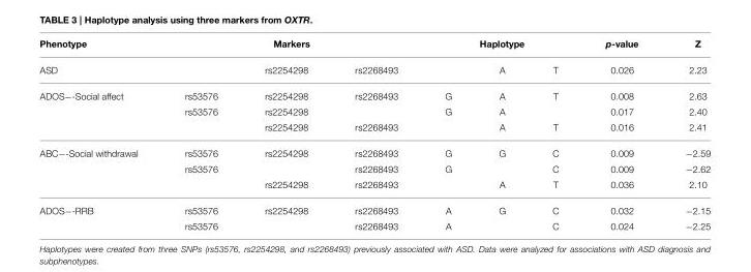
<table><thead><tr><td rowspan="2">Phenotype ASD</td><td colspan="3">Markers</td><td colspan="3">Haplotype</td><td rowspan="2">p-value 0.026</td><td rowspan="2">Z 2.23</td></tr><tr><td></td><td>rs2254298</td><td>rs2268493</td><td></td><td>A</td><td>T</td></tr></thead><tbody><tr><td rowspan="3">ADOS−-Social affect</td><td>rs53576</td><td>rs2254298</td><td>rs2268493</td><td>G</td><td>A</td><td>T</td><td>0.008</td><td>2.63</td></tr><tr><td>rs53576</td><td>rs2254298</td><td></td><td>G</td><td>A</td><td></td><td>0.017</td><td>2.40</td></tr><tr><td></td><td>rs2254298</td><td>rs2268493</td><td></td><td>A</td><td>T</td><td>0.016</td><td>2.41</td></tr><tr><td rowspan="3">ABC−-Social withdrawal</td><td>rs53576</td><td>rs2254298</td><td>rs2268493</td><td>G</td><td>G</td><td>C</td><td>0.009</td><td>−2.59</td></tr><tr><td>rs53576</td><td></td><td>rs2268493</td><td>G</td><td></td><td>C</td><td>0.009</td><td>−2.62</td></tr><tr><td></td><td>rs2254298</td><td>rs2268493</td><td></td><td>A</td><td>T</td><td>0.036</td><td>2.10</td></tr><tr><td rowspan="2">ADOS−-RRB</td><td>rs53576</td><td>rs2254298</td><td>rs2268493</td><td>A</td><td>G</td><td>C</td><td>0.032</td><td>−2.15</td></tr><tr><td>rs53576</td><td></td><td>rs2268493</td><td>A</td><td></td><td>C</td><td>0.024</td><td>−2.25</td></tr></tbody></table>